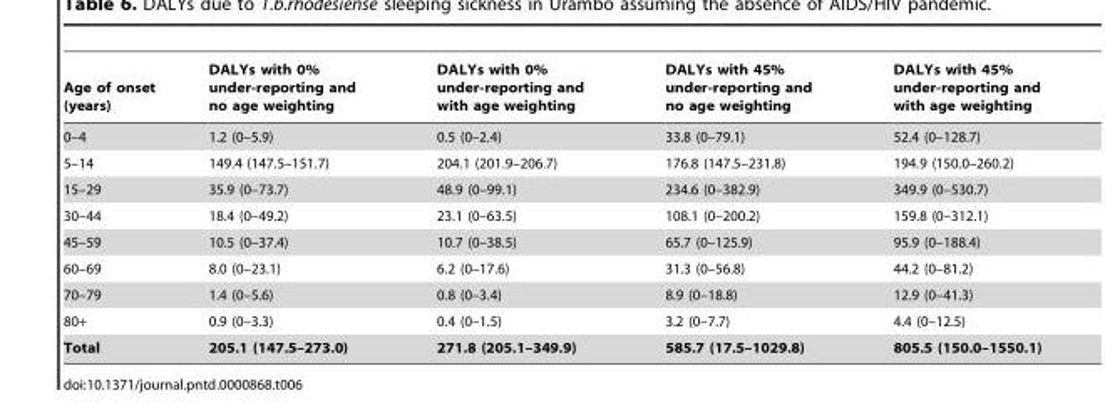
<table><thead><tr><td>Age of onset (years)</td><td>DALYs with 0% under-reporting and no age weighting</td><td>DALYs with 0% under-reporting and with age weighting</td><td>DALYs with 45% under-reporting and no age weighting</td><td>DALYs with 45% under-reporting and with age weighting</td></tr></thead><tbody><tr><td>0–4</td><td>1.2 (0–5.9)</td><td>0.5 (0–2.4)</td><td>33.8 (0–79.1)</td><td>52.4 (0–128.7)</td></tr><tr><td>5–14</td><td>149.4 (147.5–151.7)</td><td>204.1 (201.9–206.7)</td><td>176.8 (147.5–231.8)</td><td>194.9 (150.0–260.2)</td></tr><tr><td>15–29</td><td>35.9 (0–73.7)</td><td>48.9 (0–99.1)</td><td>234.6 (0–382.9)</td><td>349.9 (0–530.7)</td></tr><tr><td>30–44</td><td>18.4 (0–49.2)</td><td>23.1 (0–63.5)</td><td>108.1 (0–200.2)</td><td>159.8 (0–312.1)</td></tr><tr><td>45–59</td><td>10.5 (0–37.4)</td><td>10.7 (0–38.5)</td><td>65.7 (0–125.9)</td><td>95.9 (0–188.4)</td></tr><tr><td>60–69</td><td>8.0 (0–23.1)</td><td>6.2 (0–17.6)</td><td>31.3 (0–56.8)</td><td>44.2 (0–81.2)</td></tr><tr><td>70–79</td><td>1.4 (0–5.6)</td><td>0.8 (0–3.4)</td><td>8.9 (0–18.8)</td><td>12.9 (0–41.3)</td></tr><tr><td>80+</td><td>0.9 (0–3.3)</td><td>0.4 (0–1.5)</td><td>3.2 (0–7.7)</td><td>4.4 (0–12.5)</td></tr><tr><td>Total</td><td>205.1 (147.5–273.0)</td><td>271.8 (205.1–349.9)</td><td>585.7 (17.5–1029.8)</td><td>805.5 (150.0–1550.1)</td></tr></tbody></table>